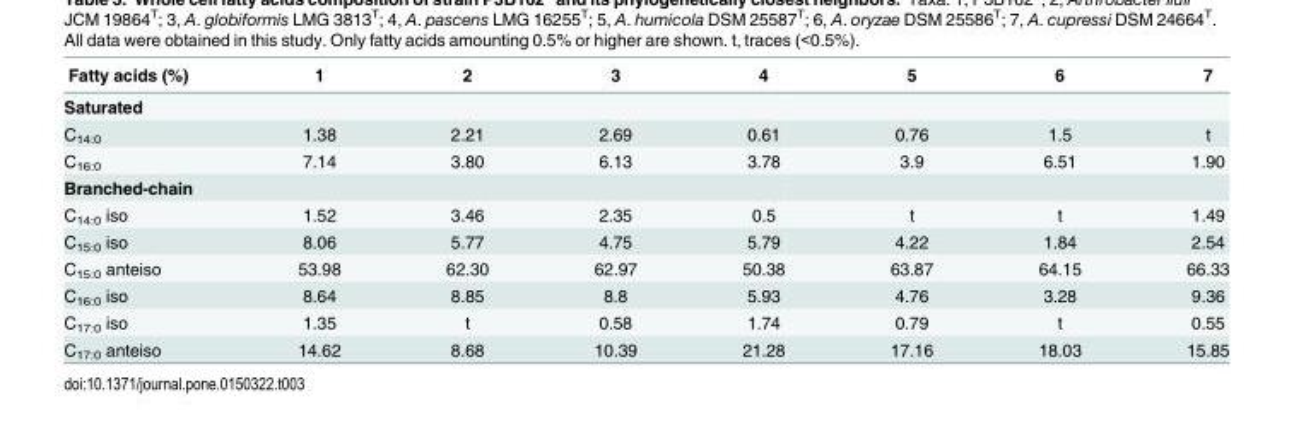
<table><thead><tr><td>Fatty acids (%)</td><td>1</td><td>2</td><td>3</td><td>4</td><td>5</td><td>6</td><td>7</td></tr></thead><tbody><tr><td colspan="8">Saturated</td></tr><tr><td>C<sub>14:0</sub></td><td>1.38</td><td>2.21</td><td>2.69</td><td>0.61</td><td>0.76</td><td>1.5</td><td>t</td></tr><tr><td>C<sub>16:0</sub></td><td>7.14</td><td>3.80</td><td>6.13</td><td>3.78</td><td>3.9</td><td>6.51</td><td>1.90</td></tr><tr><td colspan="8">Branched-chain</td></tr><tr><td>C<sub>14:0</sub> iso</td><td>1.52</td><td>3.46</td><td>2.35</td><td>0.5</td><td>t</td><td>t</td><td>1.49</td></tr><tr><td>C<sub>15:0</sub> iso</td><td>8.06</td><td>5.77</td><td>4.75</td><td>5.79</td><td>4.22</td><td>1.84</td><td>2.54</td></tr><tr><td>C<sub>15:0</sub> anteiso</td><td>53.98</td><td>62.30</td><td>62.97</td><td>50.38</td><td>63.87</td><td>64.15</td><td>66.33</td></tr><tr><td>C<sub>16:0</sub> iso</td><td>8.64</td><td>8.85</td><td>8.8</td><td>5.93</td><td>4.76</td><td>3.28</td><td>9.36</td></tr><tr><td>C<sub>17:0</sub> iso</td><td>1.35</td><td>t</td><td>0.58</td><td>1.74</td><td>0.79</td><td>t</td><td>0.55</td></tr><tr><td>C<sub>17:0</sub> anteiso</td><td>14.62</td><td>8.68</td><td>10.39</td><td>21.28</td><td>17.16</td><td>18.03</td><td>15.85</td></tr></tbody></table>